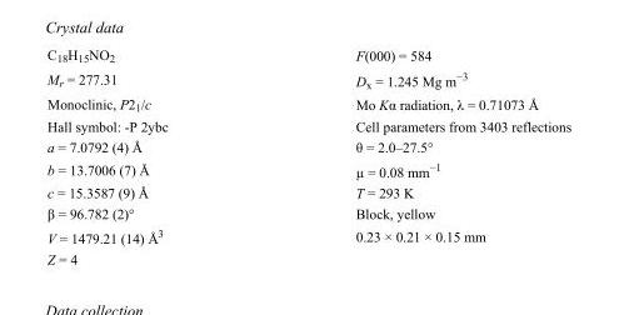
<table><tbody><tr><td>C<sub>18</sub>H<sub>15</sub>NO<sub>2</sub></td><td>F(000) = 584</td></tr><tr><td>M<sub>r</sub> = 277.31</td><td>D<sub>x</sub> = 1.245 Mg m<sup>−3</sup></td></tr><tr><td>Monoclinic, P2<sub>1</sub>/c</td><td>Mo Kα radiation, λ = 0.71073 Å</td></tr><tr><td>Hall symbol: -P 2ybc</td><td>Cell parameters from 3403 reflections</td></tr><tr><td>a = 7.0792 (4) Å</td><td>θ = 2.0–27.5°</td></tr><tr><td>b = 13.7006 (7) Å</td><td>µ = 0.08 mm<sup>−1</sup></td></tr><tr><td>c = 15.3587 (9) Å</td><td>T = 293 K</td></tr><tr><td>β = 96.782 (2)°</td><td>Block, yellow</td></tr><tr><td>V = 1479.21 (14) Å<sup>3</sup></td><td>0.23 × 0.21 × 0.15 mm</td></tr><tr><td>Z = 4</td><td></td></tr></tbody></table>